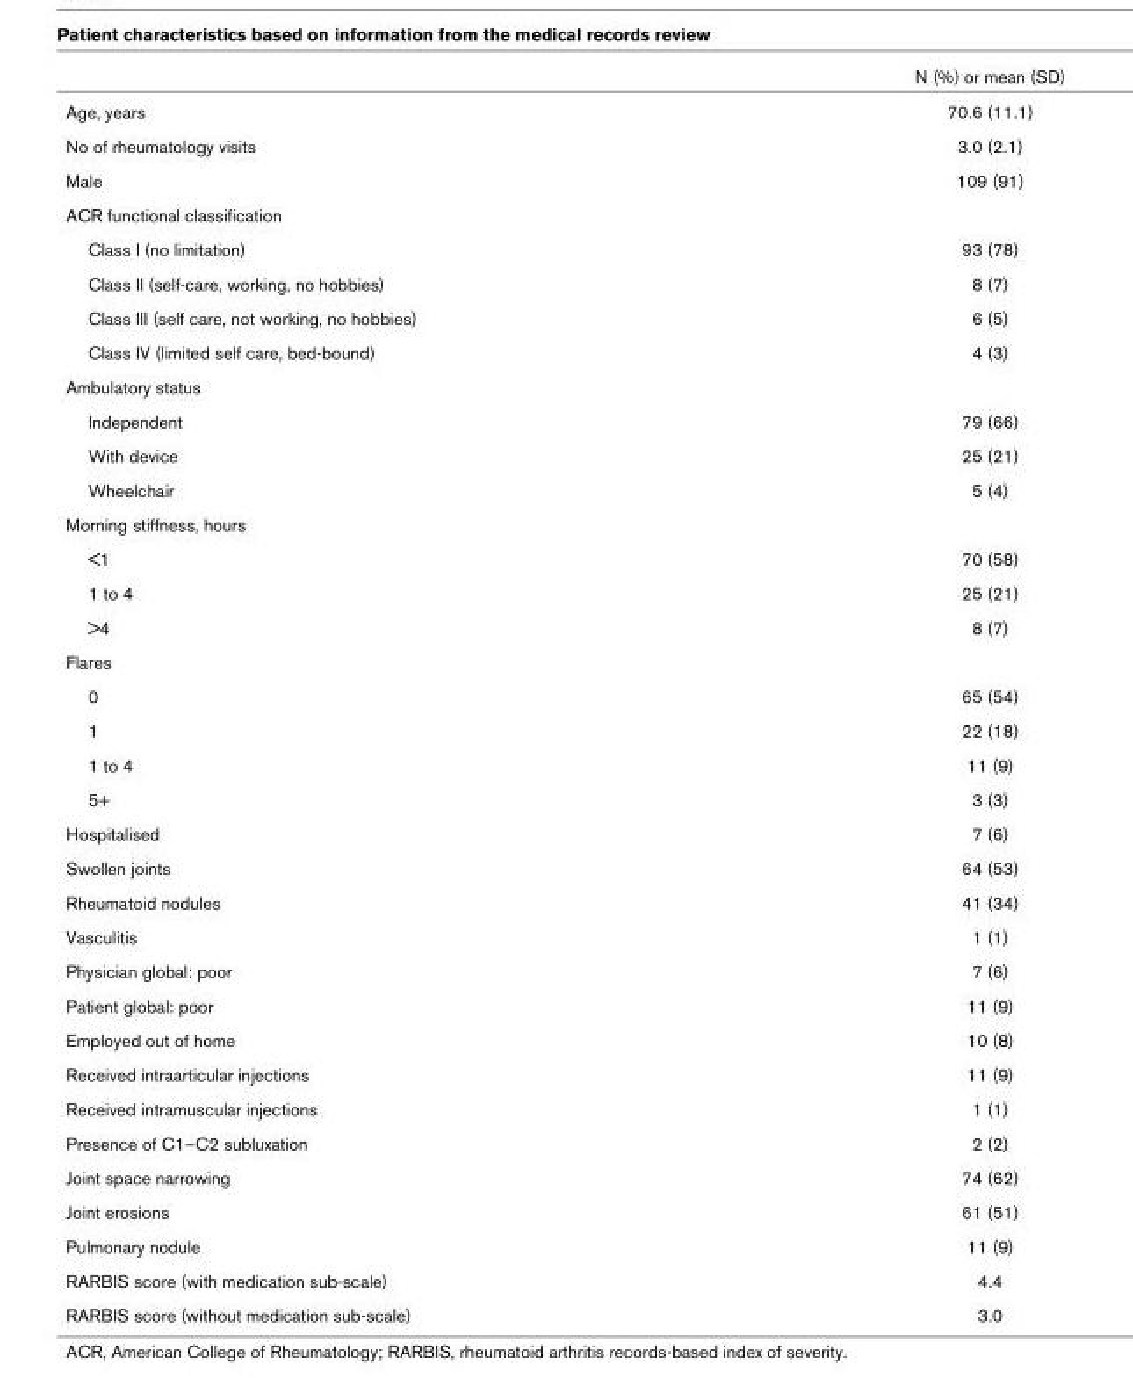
<table><thead><tr><td></td><td>N (%) or mean (SD)</td></tr></thead><tbody><tr><td>Age, years</td><td>70.6 (11.1)</td></tr><tr><td>No of rheumatology visits</td><td>3.0 (2.1)</td></tr><tr><td>Male</td><td>109 (91)</td></tr><tr><td colspan="2">ACR functional classification</td></tr><tr><td>Class I (no limitation)</td><td>93 (78)</td></tr><tr><td>Class II (self-care, working, no hobbies)</td><td>8 (7)</td></tr><tr><td>Class III (self care, not working, no hobbies)</td><td>6 (5)</td></tr><tr><td>Class IV (limited self care, bed-bound)</td><td>4 (3)</td></tr><tr><td colspan="2">Ambulatory status</td></tr><tr><td>Independent</td><td>79 (66)</td></tr><tr><td>With device</td><td>25 (21)</td></tr><tr><td>Wheelchair</td><td>5 (4)</td></tr><tr><td colspan="2">Morning stiffness, hours</td></tr><tr><td>&lt;1</td><td>70 (58)</td></tr><tr><td>1 to 4</td><td>25 (21)</td></tr><tr><td>&gt;4</td><td>8 (7)</td></tr><tr><td colspan="2">Flares</td></tr><tr><td>0</td><td>65 (54)</td></tr><tr><td>1</td><td>22 (18)</td></tr><tr><td>1 to 4</td><td>11 (9)</td></tr><tr><td>5+</td><td>3 (3)</td></tr><tr><td>Hospitalised</td><td>7 (6)</td></tr><tr><td>Swollen joints</td><td>64 (53)</td></tr><tr><td>Rheumatoid nodules</td><td>41 (34)</td></tr><tr><td>Vasculitis</td><td>1 (1)</td></tr><tr><td>Physician global: poor</td><td>7 (6)</td></tr><tr><td>Patient global: poor</td><td>11 (9)</td></tr><tr><td>Employed out of home</td><td>10 (8)</td></tr><tr><td>Received intraarticular injections</td><td>11 (9)</td></tr><tr><td>Received intramuscular injections</td><td>1 (1)</td></tr><tr><td>Presence of C1–C2 subluxation</td><td>2 (2)</td></tr><tr><td>Joint space narrowing</td><td>74 (62)</td></tr><tr><td>Joint erosions</td><td>61 (51)</td></tr><tr><td>Pulmonary nodule</td><td>11 (9)</td></tr><tr><td>RARBIS score (with medication sub-scale)</td><td>4.4</td></tr><tr><td>RARBIS score (without medication sub-scale)</td><td>3.0</td></tr></tbody></table>